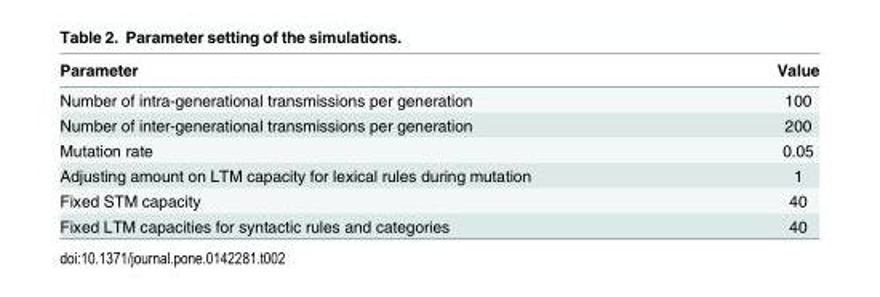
<table><thead><tr><td>Parameter</td><td>Value</td></tr></thead><tbody><tr><td>Number of intra-generational transmissions per generation</td><td>100</td></tr><tr><td>Number of inter-generational transmissions per generation</td><td>200</td></tr><tr><td>Mutation rate</td><td>0.05</td></tr><tr><td>Adjusting amount on LTM capacity for lexical rules during mutation</td><td>1</td></tr><tr><td>Fixed STM capacity</td><td>40</td></tr><tr><td>Fixed LTM capacities for syntactic rules and categories</td><td>40</td></tr></tbody></table>